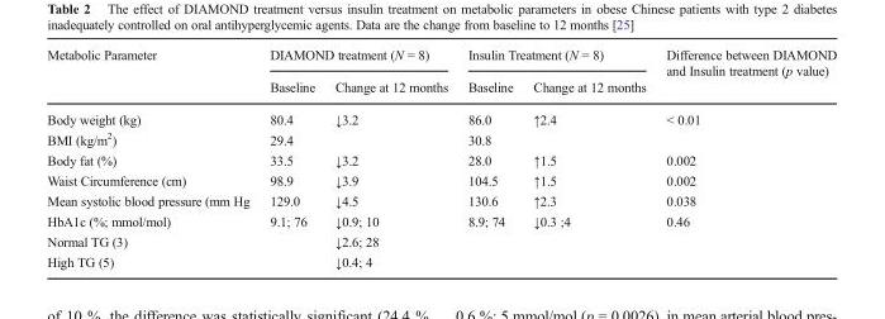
<table><thead><tr><td rowspan="2">Metabolic Parameter</td><td colspan="2">DIAMOND treatment (N = 8)</td><td colspan="2">Insulin Treatment (N = 8)</td><td rowspan="2">Difference between DIAMOND and Insulin treatment (p value)</td></tr><tr><td>Baseline</td><td>Change at 12 months</td><td>Baseline</td><td>Change at 12 months</td></tr></thead><tbody><tr><td>Body weight (kg)</td><td>80.4</td><td>↓3.2</td><td>86.0</td><td>↑2.4</td><td>&lt; 0.01</td></tr><tr><td>BMI (kg/m<sup>2</sup>)</td><td>29.4</td><td></td><td>30.8</td><td></td><td></td></tr><tr><td>Body fat (%)</td><td>33.5</td><td>↓3.2</td><td>28.0</td><td>↑1.5</td><td>0.002</td></tr><tr><td>Waist Circumference (cm)</td><td>98.9</td><td>↓3.9</td><td>104.5</td><td>↑1.5</td><td>0.002</td></tr><tr><td>Mean systolic blood pressure (mm Hg</td><td>129.0</td><td>↓4.5</td><td>130.6</td><td>↑2.3</td><td>0.038</td></tr><tr><td>HbA1c (%; mmol/mol)</td><td>9.1; 76</td><td>↓0.9; 10</td><td>8.9; 74</td><td>↓0.3 ;4</td><td>0.46</td></tr><tr><td>Normal TG (3)</td><td></td><td>↓2.6; 28</td><td></td><td></td><td></td></tr><tr><td>High TG (5)</td><td></td><td>↓0.4; 4</td><td></td><td></td><td></td></tr></tbody></table>